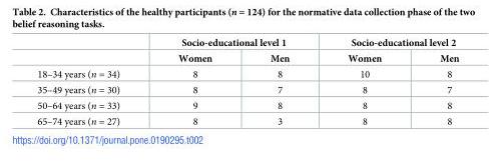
<table><thead><tr><td rowspan="2"></td><td colspan="2">Socio-educational level 1</td><td colspan="2">Socio-educational level 2</td></tr><tr><td>Women</td><td>Men</td><td>Women</td><td>Men</td></tr></thead><tbody><tr><td>18–34 years (n = 34)</td><td>8</td><td>8</td><td>10</td><td>8</td></tr><tr><td>35–49 years (n = 30)</td><td>8</td><td>7</td><td>8</td><td>7</td></tr><tr><td>50–64 years (n = 33)</td><td>9</td><td>8</td><td>8</td><td>8</td></tr><tr><td>65–74 years (n = 27)</td><td>8</td><td>3</td><td>8</td><td>8</td></tr></tbody></table>